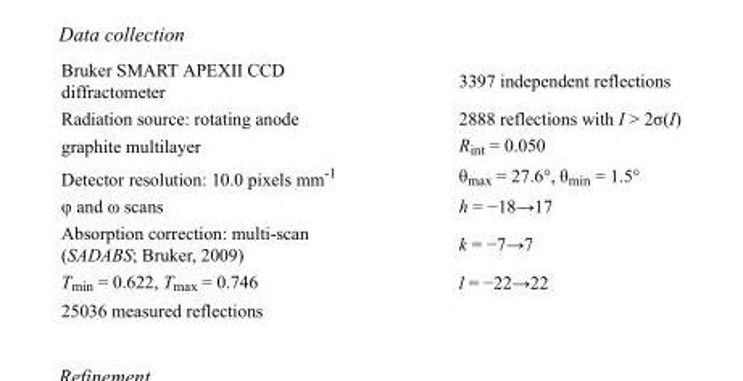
<table><tbody><tr><td>Bruker SMART APEXII CCD diffractometer</td><td>3397 independent reflections</td></tr><tr><td>Radiation source: rotating anode</td><td>2888 reflections with I &gt; 2σ(I)</td></tr><tr><td>graphite multilayer</td><td>R<sub>int</sub> = 0.050</td></tr><tr><td>Detector resolution: 10.0 pixels mm<sup>-1</sup></td><td>θ<sub>max</sub> = 27.6°, θ<sub>min</sub> = 1.5°</td></tr><tr><td>φ and ω scans</td><td>h = −18→17</td></tr><tr><td>Absorption correction: multi-scan (SADABS; Bruker, 2009)</td><td>k = −7→7</td></tr><tr><td>T<sub>min</sub> = 0.622, T<sub>max</sub> = 0.746</td><td>l = −22→22</td></tr><tr><td>25036 measured reflections</td><td></td></tr></tbody></table>